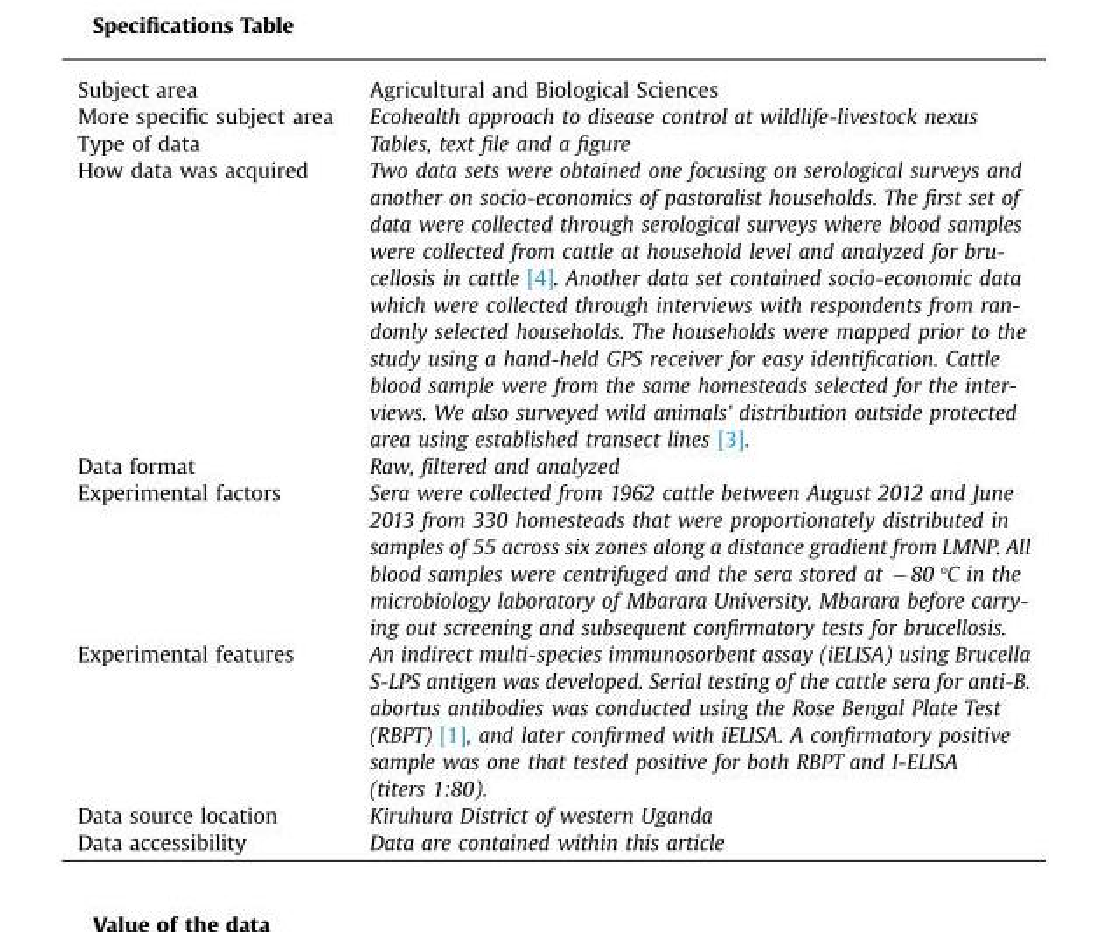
<table><tbody><tr><td>Subject area</td><td>Agricultural and Biological Sciences</td></tr><tr><td>More specific subject area</td><td>Ecohealth approach to disease control at wildlife-livestock nexus</td></tr><tr><td>Type of data</td><td>Tables, text file and a figure</td></tr><tr><td>How data was acquired</td><td>Two data sets were obtained one focusing on serological surveys and another on socio-economics of pastoralist households. The first set of data were collected through serological surveys where blood samples were collected from cattle at household level and analyzed for bru- cellosis in cattle [4]. Another data set contained socio-economic data which were collected through interviews with respondents from ran- domly selected households. The households were mapped prior to the study using a hand-held GPS receiver for easy identification. Cattle blood sample were from the same homesteads selected for the inter- views. We also surveyed wild animals’ distribution outside protected area using established transect lines [3].</td></tr><tr><td>Data format</td><td>Raw, filtered and analyzed</td></tr><tr><td>Experimental factors</td><td>Sera were collected from 1962 cattle between August 2012 and June 2013 from 330 homesteads that were proportionately distributed in samples of 55 across six zones along a distance gradient from LMNP. All blood samples were centrifuged and the sera stored at �80 °C in the microbiology laboratory of Mbarara University, Mbarara before carry- ing out screening and subsequent confirmatory tests for brucellosis.</td></tr><tr><td>Experimental features</td><td>An indirect multi-species immunosorbent assay (iELISA) using Brucella S-LPS antigen was developed. Serial testing of the cattle sera for anti-B. abortus antibodies was conducted using the Rose Bengal Plate Test (RBPT) [1], and later confirmed with iELISA. A confirmatory positive sample was one that tested positive for both RBPT and I-ELISA (titers 1:80).</td></tr><tr><td>Data source location</td><td>Kiruhura District of western Uganda</td></tr><tr><td>Data accessibility</td><td>Data are contained within this article</td></tr></tbody></table>